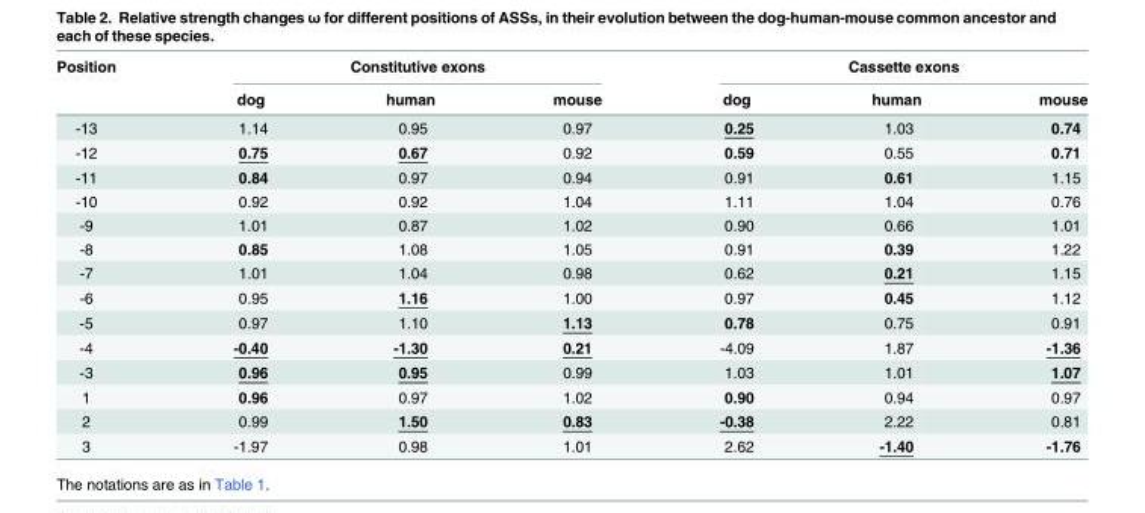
<table><thead><tr><td rowspan="2">Position</td><td colspan="3">Constitutive exons</td><td colspan="3">Cassette exons</td></tr><tr><td>dog</td><td>human</td><td>mouse</td><td>dog</td><td>human</td><td>mouse</td></tr></thead><tbody><tr><td>-13</td><td>1.14</td><td>0.95</td><td>0.97</td><td>0.25</td><td>1.03</td><td>0.74</td></tr><tr><td>-12</td><td>0.75</td><td>0.67</td><td>0.92</td><td>0.59</td><td>0.55</td><td>0.71</td></tr><tr><td>-11</td><td>0.84</td><td>0.97</td><td>0.94</td><td>0.91</td><td>0.61</td><td>1.15</td></tr><tr><td>-10</td><td>0.92</td><td>0.92</td><td>1.04</td><td>1.11</td><td>1.04</td><td>0.76</td></tr><tr><td>-9</td><td>1.01</td><td>0.87</td><td>1.02</td><td>0.90</td><td>0.66</td><td>1.01</td></tr><tr><td>-8</td><td>0.85</td><td>1.08</td><td>1.05</td><td>0.91</td><td>0.39</td><td>1.22</td></tr><tr><td>-7</td><td>1.01</td><td>1.04</td><td>0.98</td><td>0.62</td><td>0.21</td><td>1.15</td></tr><tr><td>-6</td><td>0.95</td><td>1.16</td><td>1.00</td><td>0.97</td><td>0.45</td><td>1.12</td></tr><tr><td>-5</td><td>0.97</td><td>1.10</td><td>1.13</td><td>0.78</td><td>0.75</td><td>0.91</td></tr><tr><td>-4</td><td>-0.40</td><td>-1.30</td><td>0.21</td><td>-4.09</td><td>1.87</td><td>-1.36</td></tr><tr><td>-3</td><td>0.96</td><td>0.95</td><td>0.99</td><td>1.03</td><td>1.01</td><td>1.07</td></tr><tr><td>1</td><td>0.96</td><td>0.97</td><td>1.02</td><td>0.90</td><td>0.94</td><td>0.97</td></tr><tr><td>2</td><td>0.99</td><td>1.50</td><td>0.83</td><td>-0.38</td><td>2.22</td><td>0.81</td></tr><tr><td>3</td><td>-1.97</td><td>0.98</td><td>1.01</td><td>2.62</td><td>-1.40</td><td>-1.76</td></tr></tbody></table>